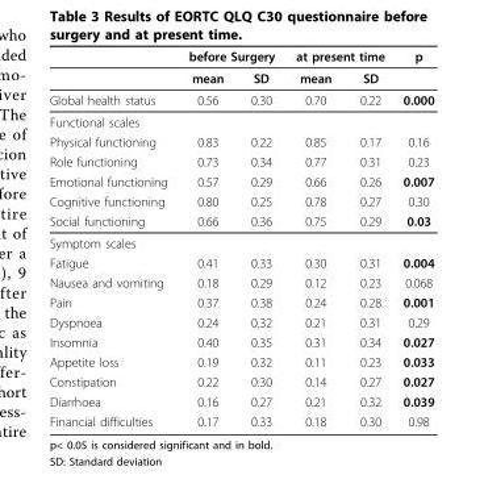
<table><thead><tr><td rowspan="2"></td><td colspan="2">before Surgery</td><td colspan="2">at present time</td><td rowspan="2">p</td></tr><tr><td>mean</td><td>SD</td><td>mean</td><td>SD</td></tr></thead><tbody><tr><td>Global health status</td><td>0.56</td><td>0.30</td><td>0.70</td><td>0.22</td><td>0.000</td></tr><tr><td colspan="6">Functional scales</td></tr><tr><td>Physical functioning</td><td>0.83</td><td>0.22</td><td>0.85</td><td>0.17</td><td>0.16</td></tr><tr><td>Role functioning</td><td>0.73</td><td>0.34</td><td>0.77</td><td>0.31</td><td>0.23</td></tr><tr><td>Emotional functioning</td><td>0.57</td><td>0.29</td><td>0.66</td><td>0.26</td><td>0.007</td></tr><tr><td>Cognitive functioning</td><td>0.80</td><td>0.25</td><td>0.78</td><td>0.27</td><td>0.30</td></tr><tr><td>Social functioning</td><td>0.66</td><td>0.36</td><td>0.75</td><td>0.29</td><td>0.03</td></tr><tr><td colspan="6">Symptom scales</td></tr><tr><td>Fatigue</td><td>0.41</td><td>0.33</td><td>0.30</td><td>0.31</td><td>0.004</td></tr><tr><td>Nausea and vomiting</td><td>0.18</td><td>0.29</td><td>0.12</td><td>0.23</td><td>0.068</td></tr><tr><td>Pain</td><td>0.37</td><td>0.38</td><td>0.24</td><td>0.28</td><td>0.001</td></tr><tr><td>Dyspnoea</td><td>0.24</td><td>0.32</td><td>0.21</td><td>0.31</td><td>0.29</td></tr><tr><td>Insomnia</td><td>0.40</td><td>0.35</td><td>0.31</td><td>0.34</td><td>0.027</td></tr><tr><td>Appetite loss</td><td>0.19</td><td>0.32</td><td>0.11</td><td>0.23</td><td>0.033</td></tr><tr><td>Constipation</td><td>0.22</td><td>0.30</td><td>0.14</td><td>0.27</td><td>0.027</td></tr><tr><td>Diarrhoea</td><td>0.16</td><td>0.27</td><td>0.21</td><td>0.32</td><td>0.039</td></tr><tr><td>Financial difficulties</td><td>0.17</td><td>0.33</td><td>0.18</td><td>0.30</td><td>0.98</td></tr></tbody></table>